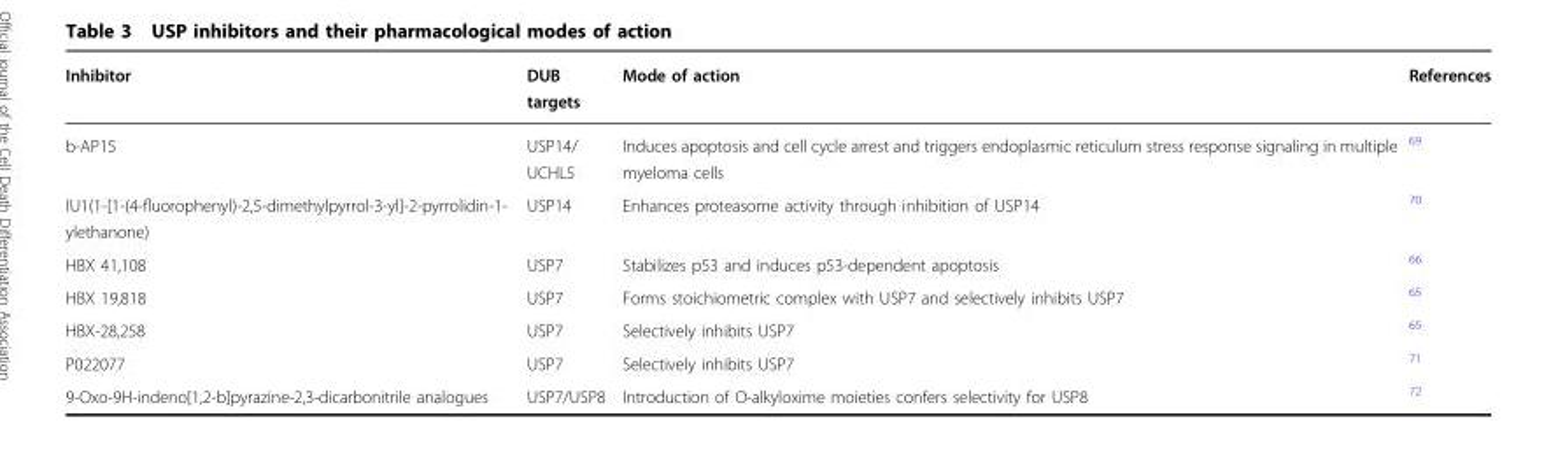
<table><thead><tr><td>Inhibitor</td><td>DUB targets</td><td>Mode of action</td><td>References</td></tr></thead><tbody><tr><td>b-AP15</td><td>USP14/ UCHL5</td><td>Induces apoptosis and cell cycle arrest and triggers endoplasmic reticulum stress response signaling in multiple myeloma cells</td><td><sup>69</sup></td></tr><tr><td>IU1(1-[1-(4-fluorophenyl)-2,5-dimethylpyrrol-3-yl]-2-pyrrolidin-1- ylethanone)</td><td>USP14</td><td>Enhances proteasome activity through inhibition of USP14</td><td><sup>70</sup></td></tr><tr><td>HBX 41,108</td><td>USP7</td><td>Stabilizes p53 and induces p53-dependent apoptosis</td><td><sup>66</sup></td></tr><tr><td>HBX 19,818</td><td>USP7</td><td>Forms stoichiometric complex with USP7 and selectively inhibits USP7</td><td><sup>65</sup></td></tr><tr><td>HBX-28,258</td><td>USP7</td><td>Selectively inhibits USP7</td><td><sup>65</sup></td></tr><tr><td>P022077</td><td>USP7</td><td>Selectively inhibits USP7</td><td><sup>71</sup></td></tr><tr><td>9-Oxo-9H-indeno[1,2-b]pyrazine-2,3-dicarbonitrile analogues</td><td>USP7/USP8</td><td>Introduction of O-alkyloxime moieties confers selectivity for USP8</td><td><sup>72</sup></td></tr></tbody></table>